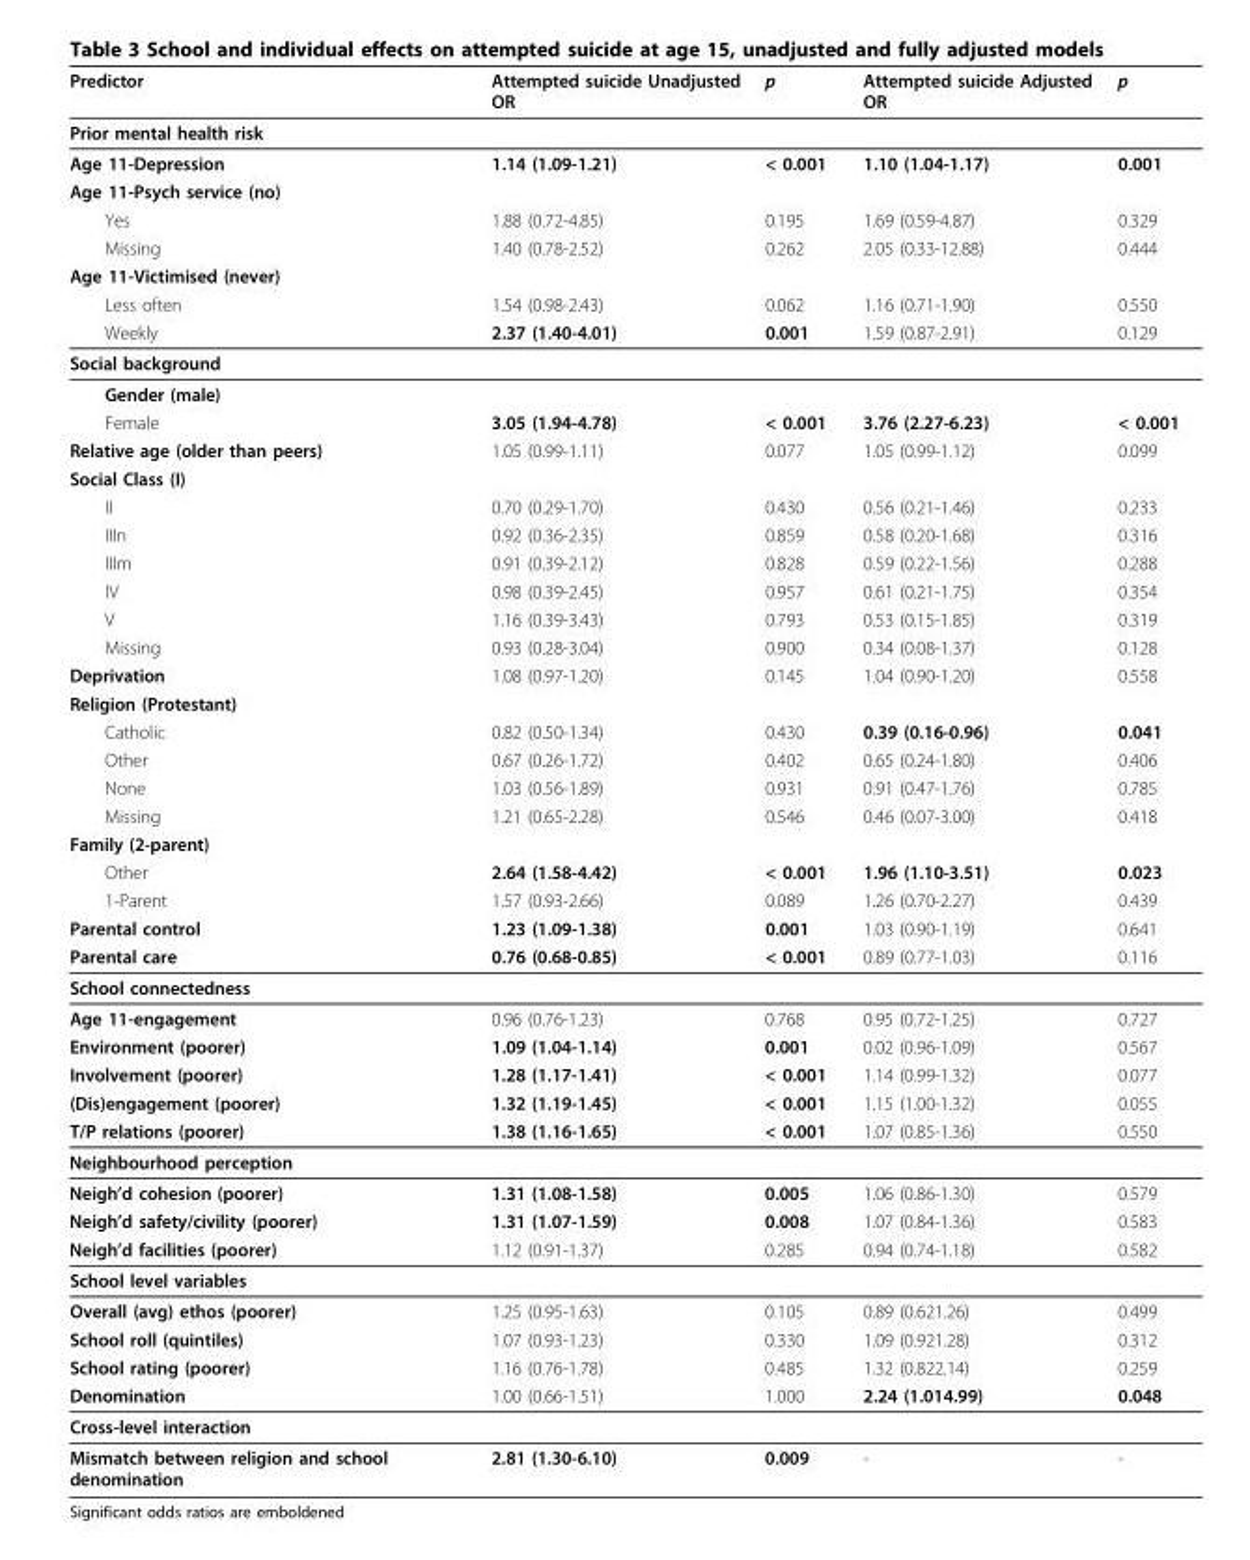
<table><thead><tr><td>Predictor</td><td>Attempted suicide Unadjusted OR</td><td>p</td><td>Attempted suicide Adjusted OR</td><td>p</td></tr></thead><tbody><tr><td colspan="5">Prior mental health risk</td></tr><tr><td>Age 11-Depression</td><td>1.14 (1.09-1.21)</td><td>&lt; 0.001</td><td>1.10 (1.04-1.17)</td><td>0.001</td></tr><tr><td colspan="5">Age 11-Psych service (no)</td></tr><tr><td>Yes</td><td>1.88 (0.72-4.85)</td><td>0.195</td><td>1.69 (0.59-4.87)</td><td>0.329</td></tr><tr><td>Missing</td><td>1.40 (0.78-2.52)</td><td>0.262</td><td>2.05 (0.33-12.88)</td><td>0.444</td></tr><tr><td colspan="5">Age 11-Victimised (never)</td></tr><tr><td>Less often</td><td>1.54 (0.98-2.43)</td><td>0.062</td><td>1.16 (0.71-1.90)</td><td>0.550</td></tr><tr><td>Weekly</td><td>2.37 (1.40-4.01)</td><td>0.001</td><td>1.59 (0.87-2.91)</td><td>0.129</td></tr><tr><td colspan="5">Social background</td></tr><tr><td colspan="5">Gender (male)</td></tr><tr><td>Female</td><td>3.05 (1.94-4.78)</td><td>&lt; 0.001</td><td>3.76 (2.27-6.23)</td><td>&lt; 0.001</td></tr><tr><td>Relative age (older than peers)</td><td>1.05 (0.99-1.11)</td><td>0.077</td><td>1.05 (0.99-1.12)</td><td>0.099</td></tr><tr><td colspan="5">Social Class (I)</td></tr><tr><td>II</td><td>0.70 (0.29-1.70)</td><td>0.430</td><td>0.56 (0.21-1.46)</td><td>0.233</td></tr><tr><td>IIIn</td><td>0.92 (0.36-2.35)</td><td>0.859</td><td>0.58 (0.20-1.68)</td><td>0.316</td></tr><tr><td>IIIm</td><td>0.91 (0.39-2.12)</td><td>0.828</td><td>0.59 (0.22-1.56)</td><td>0.288</td></tr><tr><td>IV</td><td>0.98 (0.39-2.45)</td><td>0.957</td><td>0.61 (0.21-1.75)</td><td>0.354</td></tr><tr><td>V</td><td>1.16 (0.39-3.43)</td><td>0.793</td><td>0.53 (0.15-1.85)</td><td>0.319</td></tr><tr><td>Missing</td><td>0.93 (0.28-3.04)</td><td>0.900</td><td>0.34 (0.08-1.37)</td><td>0.128</td></tr><tr><td>Deprivation</td><td>1.08 (0.97-1.20)</td><td>0.145</td><td>1.04 (0.90-1.20)</td><td>0.558</td></tr><tr><td colspan="5">Religion (Protestant)</td></tr><tr><td>Catholic</td><td>0.82 (0.50-1.34)</td><td>0.430</td><td>0.39 (0.16-0.96)</td><td>0.041</td></tr><tr><td>Other</td><td>0.67 (0.26-1.72)</td><td>0.402</td><td>0.65 (0.24-1.80)</td><td>0.406</td></tr><tr><td>None</td><td>1.03 (0.56-1.89)</td><td>0.931</td><td>0.91 (0.47-1.76)</td><td>0.785</td></tr><tr><td>Missing</td><td>1.21 (0.65-2.28)</td><td>0.546</td><td>0.46 (0.07-3.00)</td><td>0.418</td></tr><tr><td colspan="5">Family (2-parent)</td></tr><tr><td>Other</td><td>2.64 (1.58-4.42)</td><td>&lt; 0.001</td><td>1.96 (1.10-3.51)</td><td>0.023</td></tr><tr><td>1-Parent</td><td>1.57 (0.93-2.66)</td><td>0.089</td><td>1.26 (0.70-2.27)</td><td>0.439</td></tr><tr><td>Parental control</td><td>1.23 (1.09-1.38)</td><td>0.001</td><td>1.03 (0.90-1.19)</td><td>0.641</td></tr><tr><td>Parental care</td><td>0.76 (0.68-0.85)</td><td>&lt; 0.001</td><td>0.89 (0.77-1.03)</td><td>0.116</td></tr><tr><td colspan="5">School connectedness</td></tr><tr><td>Age 11-engagement</td><td>0.96 (0.76-1.23)</td><td>0.768</td><td>0.95 (0.72-1.25)</td><td>0.727</td></tr><tr><td>Environment (poorer)</td><td>1.09 (1.04-1.14)</td><td>0.001</td><td>0.02 (0.96-1.09)</td><td>0.567</td></tr><tr><td>Involvement (poorer)</td><td>1.28 (1.17-1.41)</td><td>&lt; 0.001</td><td>1.14 (0.99-1.32)</td><td>0.077</td></tr><tr><td>(Dis)engagement (poorer)</td><td>1.32 (1.19-1.45)</td><td>&lt; 0.001</td><td>1.15 (1.00-1.32)</td><td>0.055</td></tr><tr><td>T/P relations (poorer)</td><td>1.38 (1.16-1.65)</td><td>&lt; 0.001</td><td>1.07 (0.85-1.36)</td><td>0.550</td></tr><tr><td colspan="5">Neighbourhood perception</td></tr><tr><td>Neigh’d cohesion (poorer)</td><td>1.31 (1.08-1.58)</td><td>0.005</td><td>1.06 (0.86-1.30)</td><td>0.579</td></tr><tr><td>Neigh’d safety/civility (poorer)</td><td>1.31 (1.07-1.59)</td><td>0.008</td><td>1.07 (0.84-1.36)</td><td>0.583</td></tr><tr><td>Neigh’d facilities (poorer)</td><td>1.12 (0.91-1.37)</td><td>0.285</td><td>0.94 (0.74-1.18)</td><td>0.582</td></tr><tr><td colspan="5">School level variables</td></tr><tr><td>Overall (avg) ethos (poorer)</td><td>1.25 (0.95-1.63)</td><td>0.105</td><td>0.89 (0.621.26)</td><td>0.499</td></tr><tr><td>School roll (quintiles)</td><td>1.07 (0.93-1.23)</td><td>0.330</td><td>1.09 (0.921.28)</td><td>0.312</td></tr><tr><td>School rating (poorer)</td><td>1.16 (0.76-1.78)</td><td>0.485</td><td>1.32 (0.822.14)</td><td>0.259</td></tr><tr><td>Denomination</td><td>1.00 (0.66-1.51)</td><td>1.000</td><td>2.24 (1.014.99)</td><td>0.048</td></tr><tr><td colspan="5">Cross-level interaction</td></tr><tr><td>Mismatch between religion and school denomination</td><td>2.81 (1.30-6.10)</td><td>0.009</td><td>-</td><td>-</td></tr></tbody></table>